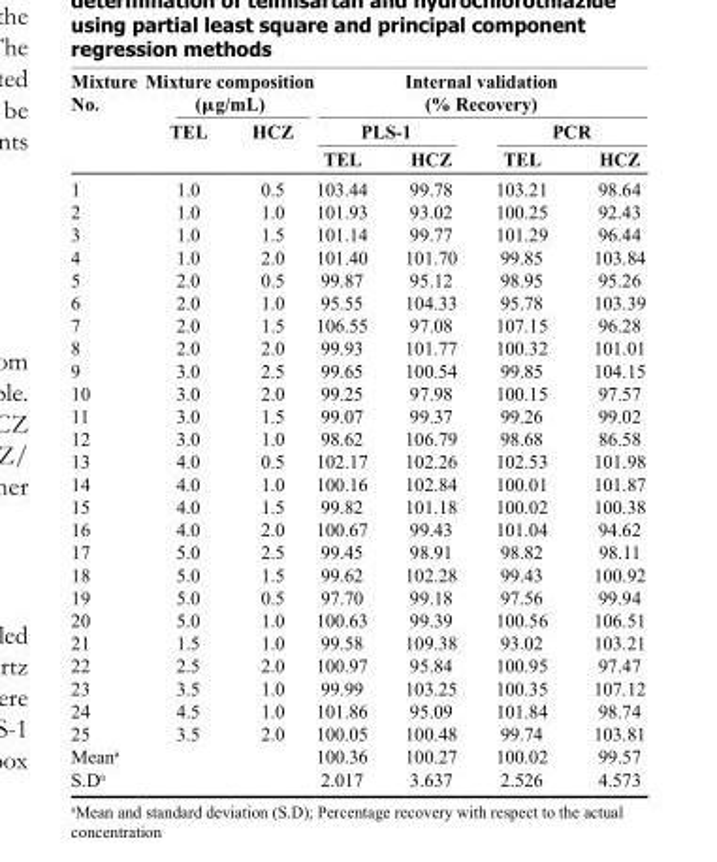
<table><thead><tr><td rowspan="3">Mixture No.</td><td colspan="2">Mixture composition (μg/mL)</td><td colspan="4">Internal validation (% Recovery)</td></tr><tr><td rowspan="2">TEL</td><td rowspan="2">HCZ</td><td colspan="2">PLS-1</td><td colspan="2">PCR</td></tr><tr><td>TEL</td><td>HCZ</td><td>TEL</td><td>HCZ</td></tr></thead><tbody><tr><td>1</td><td>1.0</td><td>0.5</td><td>103.44</td><td>99.78</td><td>103.21</td><td>98.64</td></tr><tr><td>2</td><td>1.0</td><td>1.0</td><td>101.93</td><td>93.02</td><td>100.25</td><td>92.43</td></tr><tr><td>3</td><td>1.0</td><td>1.5</td><td>101.14</td><td>99.77</td><td>101.29</td><td>96.44</td></tr><tr><td>4</td><td>1.0</td><td>2.0</td><td>101.40</td><td>101.70</td><td>99.85</td><td>103.84</td></tr><tr><td>5</td><td>2.0</td><td>0.5</td><td>99.87</td><td>95.12</td><td>98.95</td><td>95.26</td></tr><tr><td>6</td><td>2.0</td><td>1.0</td><td>95.55</td><td>104.33</td><td>95.78</td><td>103.39</td></tr><tr><td>7</td><td>2.0</td><td>1.5</td><td>106.55</td><td>97.08</td><td>107.15</td><td>96.28</td></tr><tr><td>8</td><td>2.0</td><td>2.0</td><td>99.93</td><td>101.77</td><td>100.32</td><td>101.01</td></tr><tr><td>9</td><td>3.0</td><td>2.5</td><td>99.65</td><td>100.54</td><td>99.85</td><td>104.15</td></tr><tr><td>10</td><td>3.0</td><td>2.0</td><td>99.25</td><td>97.98</td><td>100.15</td><td>97.57</td></tr><tr><td>11</td><td>3.0</td><td>1.5</td><td>99.07</td><td>99.37</td><td>99.26</td><td>99.02</td></tr><tr><td>12</td><td>3.0</td><td>1.0</td><td>98.62</td><td>106.79</td><td>98.68</td><td>86.58</td></tr><tr><td>13</td><td>4.0</td><td>0.5</td><td>102.17</td><td>102.26</td><td>102.53</td><td>101.98</td></tr><tr><td>14</td><td>4.0</td><td>1.0</td><td>100.16</td><td>102.84</td><td>100.01</td><td>101.87</td></tr><tr><td>15</td><td>4.0</td><td>1.5</td><td>99.82</td><td>101.18</td><td>100.02</td><td>100.38</td></tr><tr><td>16</td><td>4.0</td><td>2.0</td><td>100.67</td><td>99.43</td><td>101.04</td><td>94.62</td></tr><tr><td>17</td><td>5.0</td><td>2.5</td><td>99.45</td><td>98.91</td><td>98.82</td><td>98.11</td></tr><tr><td>18</td><td>5.0</td><td>1.5</td><td>99.62</td><td>102.28</td><td>99.43</td><td>100.92</td></tr><tr><td>19</td><td>5.0</td><td>0.5</td><td>97.70</td><td>99.18</td><td>97.56</td><td>99.94</td></tr><tr><td>20</td><td>5.0</td><td>1.0</td><td>100.63</td><td>99.39</td><td>100.56</td><td>106.51</td></tr><tr><td>21</td><td>1.5</td><td>1.0</td><td>99.58</td><td>109.38</td><td>93.02</td><td>103.21</td></tr><tr><td>22</td><td>2.5</td><td>2.0</td><td>100.97</td><td>95.84</td><td>100.95</td><td>97.47</td></tr><tr><td>23</td><td>3.5</td><td>1.0</td><td>99.99</td><td>103.25</td><td>100.35</td><td>107.12</td></tr><tr><td>24</td><td>4.5</td><td>1.0</td><td>101.86</td><td>95.09</td><td>101.84</td><td>98.74</td></tr><tr><td>25</td><td>3.5</td><td>2.0</td><td>100.05</td><td>100.48</td><td>99.74</td><td>103.81</td></tr><tr><td>Mean<sup>a</sup></td><td></td><td></td><td>100.36</td><td>100.27</td><td>100.02</td><td>99.57</td></tr><tr><td>S.D<sup>a</sup></td><td></td><td></td><td>2.017</td><td>3.637</td><td>2.526</td><td>4.573</td></tr></tbody></table>